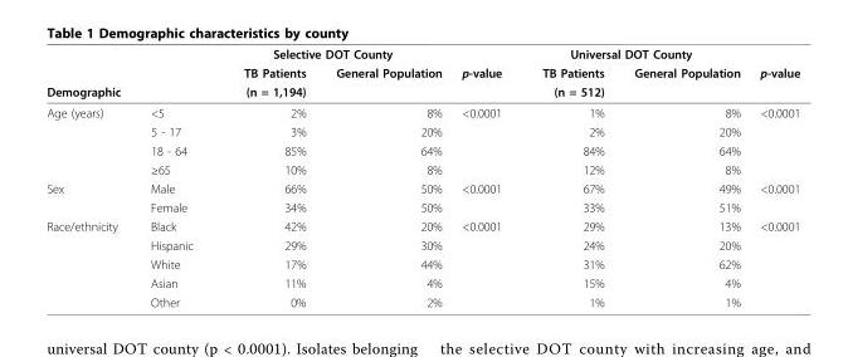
<table><thead><tr><td rowspan="3">Demographic</td><td rowspan="3"></td><td colspan="2">Selective DOT County</td><td rowspan="3">p-value</td><td colspan="2">Universal DOT County</td><td rowspan="3">p-value</td></tr><tr><td rowspan="2">TB Patients (n = 1,194)</td><td rowspan="2">General Population</td><td rowspan="2">TB Patients (n = 512)</td><td rowspan="2">General Population</td></tr><tr></tr></thead><tbody><tr><td rowspan="4">Age (years)</td><td>&lt;5</td><td>2%</td><td>8%</td><td>&lt;0.0001</td><td>1%</td><td>8%</td><td>&lt;0.0001</td></tr><tr><td>5 - 17</td><td>3%</td><td>20%</td><td></td><td>2%</td><td>20%</td><td></td></tr><tr><td>18 - 64</td><td>85%</td><td>64%</td><td></td><td>84%</td><td>64%</td><td></td></tr><tr><td>≥65</td><td>10%</td><td>8%</td><td></td><td>12%</td><td>8%</td><td></td></tr><tr><td rowspan="2">Sex</td><td>Male</td><td>66%</td><td>50%</td><td>&lt;0.0001</td><td>67%</td><td>49%</td><td>&lt;0.0001</td></tr><tr><td>Female</td><td>34%</td><td>50%</td><td></td><td>33%</td><td>51%</td><td></td></tr><tr><td rowspan="5">Race/ethnicity</td><td>Black</td><td>42%</td><td>20%</td><td>&lt;0.0001</td><td>29%</td><td>13%</td><td>&lt;0.0001</td></tr><tr><td>Hispanic</td><td>29%</td><td>30%</td><td></td><td>24%</td><td>20%</td><td></td></tr><tr><td>White</td><td>17%</td><td>44%</td><td></td><td>31%</td><td>62%</td><td></td></tr><tr><td>Asian</td><td>11%</td><td>4%</td><td></td><td>15%</td><td>4%</td><td></td></tr><tr><td>Other</td><td>0%</td><td>2%</td><td></td><td>1%</td><td>1%</td><td></td></tr></tbody></table>